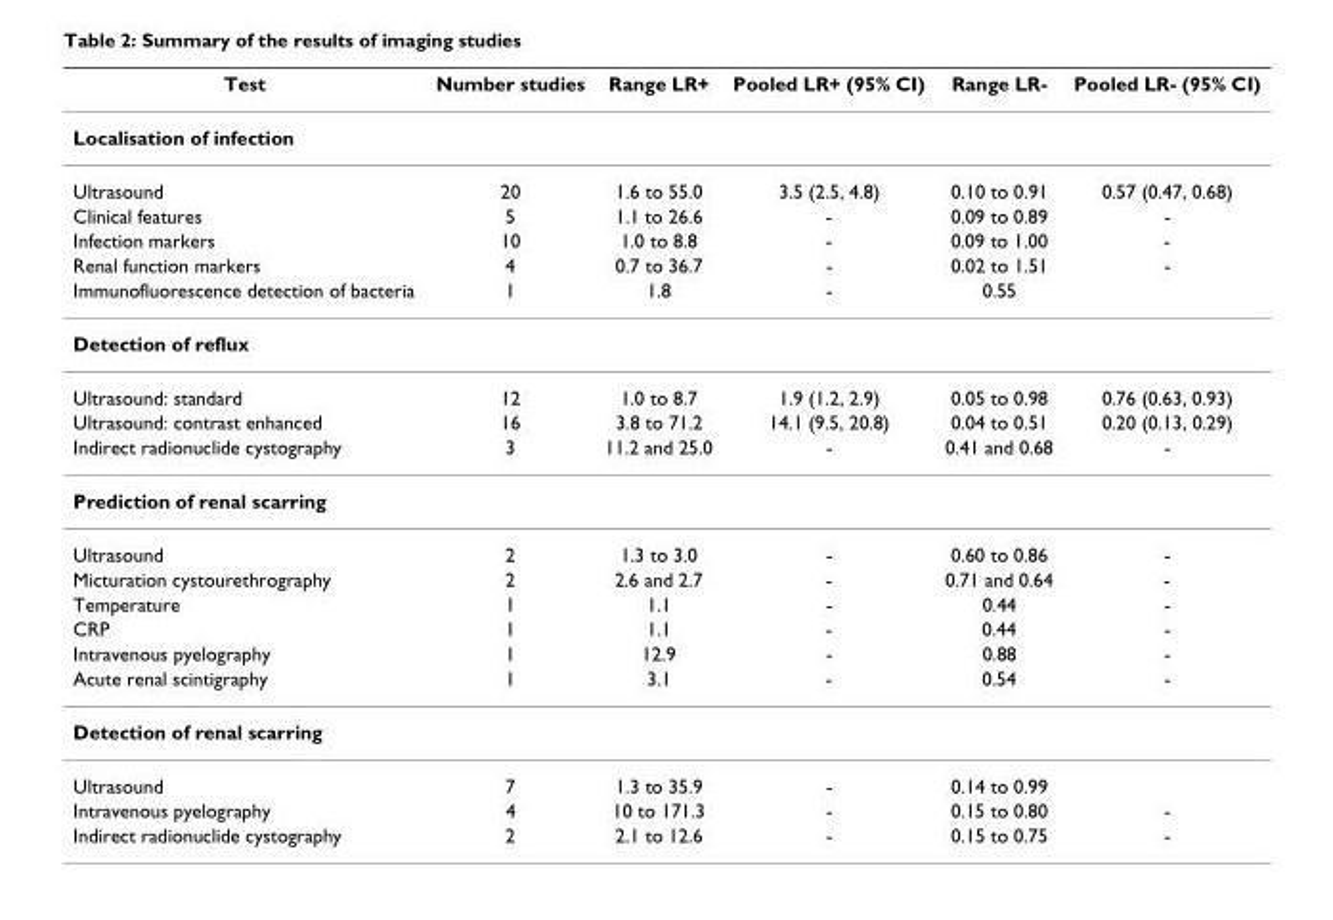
<table><thead><tr><td>Test</td><td>Number studies</td><td>Range LR+</td><td>Pooled LR+ (95% CI)</td><td>Range LR-</td><td>Pooled LR- (95% CI)</td></tr></thead><tbody><tr><td colspan="6">Localisation of infection</td></tr><tr><td>Ultrasound</td><td>20</td><td>1.6 to 55.0</td><td>3.5 (2.5, 4.8)</td><td>0.10 to 0.91</td><td>0.57 (0.47, 0.68)</td></tr><tr><td>Clinical features</td><td>5</td><td>1.1 to 26.6</td><td>-</td><td>0.09 to 0.89</td><td>-</td></tr><tr><td>Infection markers</td><td>10</td><td>1.0 to 8.8</td><td>-</td><td>0.09 to 1.00</td><td>-</td></tr><tr><td>Renal function markers</td><td>4</td><td>0.7 to 36.7</td><td>-</td><td>0.02 to 1.51</td><td>-</td></tr><tr><td>Immunofluorescence detection of bacteria</td><td>1</td><td>1.8</td><td>-</td><td>0.55</td><td></td></tr><tr><td colspan="6">Detection of reflux</td></tr><tr><td>Ultrasound: standard</td><td>12</td><td>1.0 to 8.7</td><td>1.9 (1.2, 2.9)</td><td>0.05 to 0.98</td><td>0.76 (0.63, 0.93)</td></tr><tr><td>Ultrasound: contrast enhanced</td><td>16</td><td>3.8 to 71.2</td><td>14.1 (9.5, 20.8)</td><td>0.04 to 0.51</td><td>0.20 (0.13, 0.29)</td></tr><tr><td>Indirect radionuclide cystography</td><td>3</td><td>11.2 and 25.0</td><td>-</td><td>0.41 and 0.68</td><td>-</td></tr><tr><td colspan="6">Prediction of renal scarring</td></tr><tr><td>Ultrasound</td><td>2</td><td>1.3 to 3.0</td><td>-</td><td>0.60 to 0.86</td><td>-</td></tr><tr><td>Micturation cystourethrography</td><td>2</td><td>2.6 and 2.7</td><td>-</td><td>0.71 and 0.64</td><td>-</td></tr><tr><td>Temperature</td><td>1</td><td>1.1</td><td>-</td><td>0.44</td><td>-</td></tr><tr><td>CRP</td><td>1</td><td>1.1</td><td>-</td><td>0.44</td><td>-</td></tr><tr><td>Intravenous pyelography</td><td>1</td><td>12.9</td><td>-</td><td>0.88</td><td>-</td></tr><tr><td>Acute renal scintigraphy</td><td>1</td><td>3.1</td><td>-</td><td>0.54</td><td>-</td></tr><tr><td colspan="6">Detection of renal scarring</td></tr><tr><td>Ultrasound</td><td>7</td><td>1.3 to 35.9</td><td>-</td><td>0.14 to 0.99</td><td></td></tr><tr><td>Intravenous pyelography</td><td>4</td><td>10 to 171.3</td><td>-</td><td>0.15 to 0.80</td><td>-</td></tr><tr><td>Indirect radionuclide cystography</td><td>2</td><td>2.1 to 12.6</td><td>-</td><td>0.15 to 0.75</td><td>-</td></tr></tbody></table>